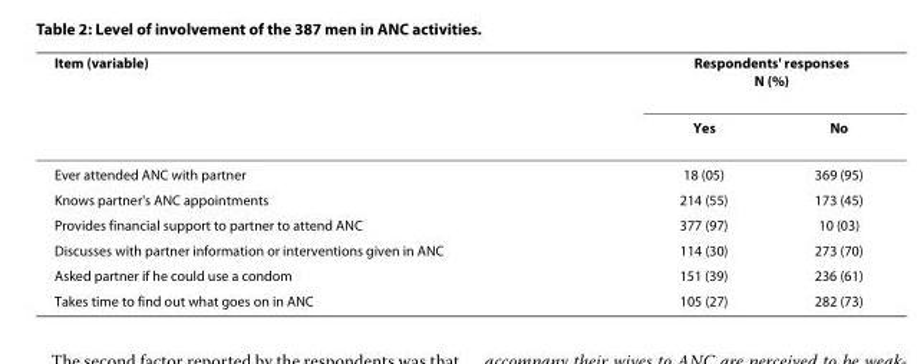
<table><thead><tr><td rowspan="2">Item (variable)</td><td colspan="2">Respondents&#x27; responses N (%)</td></tr><tr><td>Yes</td><td>No</td></tr></thead><tbody><tr><td>Ever attended ANC with partner</td><td>18 (05)</td><td>369 (95)</td></tr><tr><td>Knows partner&#x27;s ANC appointments</td><td>214 (55)</td><td>173 (45)</td></tr><tr><td>Provides financial support to partner to attend ANC</td><td>377 (97)</td><td>10 (03)</td></tr><tr><td>Discusses with partner information or interventions given in ANC</td><td>114 (30)</td><td>273 (70)</td></tr><tr><td>Asked partner if he could use a condom</td><td>151 (39)</td><td>236 (61)</td></tr><tr><td>Takes time to find out what goes on in ANC</td><td>105 (27)</td><td>282 (73)</td></tr></tbody></table>